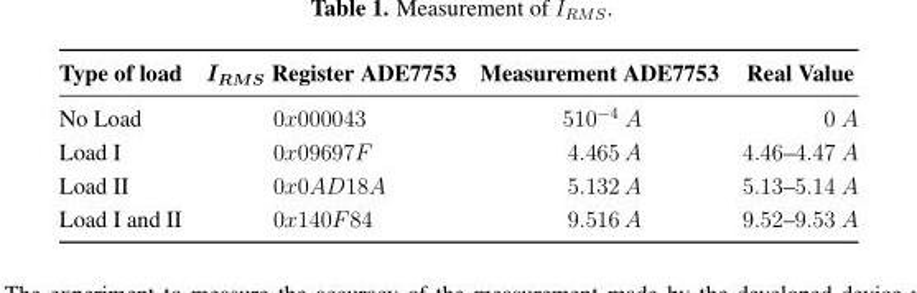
<table><thead><tr><td>Type of load</td><td>I<sub>RMS</sub> Register ADE7753</td><td>Measurement ADE7753</td><td>Real Value</td></tr></thead><tbody><tr><td>No Load</td><td>0x000043</td><td>510<sup>−4</sup> A</td><td>0 A</td></tr><tr><td>Load I</td><td>0x09697F</td><td>4.465 A</td><td>4.46–4.47 A</td></tr><tr><td>Load II</td><td>0x0AD18A</td><td>5.132 A</td><td>5.13–5.14 A</td></tr><tr><td>Load I and II</td><td>0x140F84</td><td>9.516 A</td><td>9.52–9.53 A</td></tr></tbody></table>